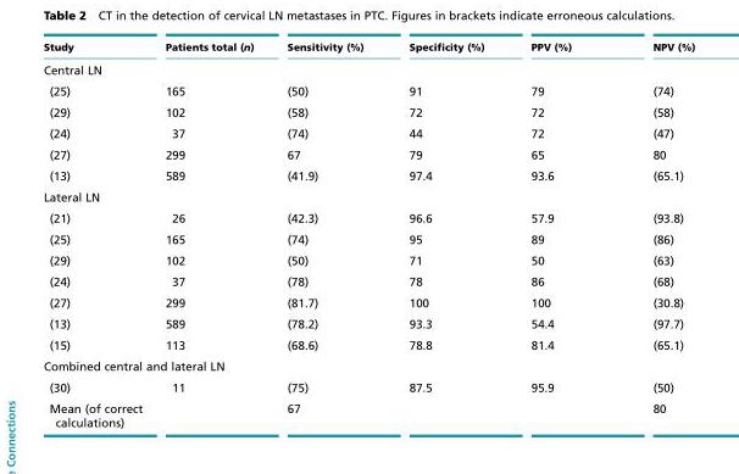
<table><thead><tr><td>Study</td><td>Patients total (n)</td><td>Sensitivity (%)</td><td>Specificity (%)</td><td>PPV (%)</td><td>NPV (%)</td></tr></thead><tbody><tr><td colspan="6">Central LN</td></tr><tr><td>(25)</td><td>165</td><td>(50)</td><td>91</td><td>79</td><td>(74)</td></tr><tr><td>(29)</td><td>102</td><td>(58)</td><td>72</td><td>72</td><td>(58)</td></tr><tr><td>(24)</td><td>37</td><td>(74)</td><td>44</td><td>72</td><td>(47)</td></tr><tr><td>(27)</td><td>299</td><td>67</td><td>79</td><td>65</td><td>80</td></tr><tr><td>(13)</td><td>589</td><td>(41.9)</td><td>97.4</td><td>93.6</td><td>(65.1)</td></tr><tr><td colspan="6">Lateral LN</td></tr><tr><td>(21)</td><td>26</td><td>(42.3)</td><td>96.6</td><td>57.9</td><td>(93.8)</td></tr><tr><td>(25)</td><td>165</td><td>(74)</td><td>95</td><td>89</td><td>(86)</td></tr><tr><td>(29)</td><td>102</td><td>(50)</td><td>71</td><td>50</td><td>(63)</td></tr><tr><td>(24)</td><td>37</td><td>(78)</td><td>78</td><td>86</td><td>(68)</td></tr><tr><td>(27)</td><td>299</td><td>(81.7)</td><td>100</td><td>100</td><td>(30.8)</td></tr><tr><td>(13)</td><td>589</td><td>(78.2)</td><td>93.3</td><td>54.4</td><td>(97.7)</td></tr><tr><td>(15)</td><td>113</td><td>(68.6)</td><td>78.8</td><td>81.4</td><td>(65.1)</td></tr><tr><td colspan="6">Combined central and lateral LN</td></tr><tr><td>(30)</td><td>11</td><td>(75)</td><td>87.5</td><td>95.9</td><td>(50)</td></tr><tr><td>Mean (of correct calculations)</td><td></td><td>67</td><td></td><td></td><td>80</td></tr></tbody></table>